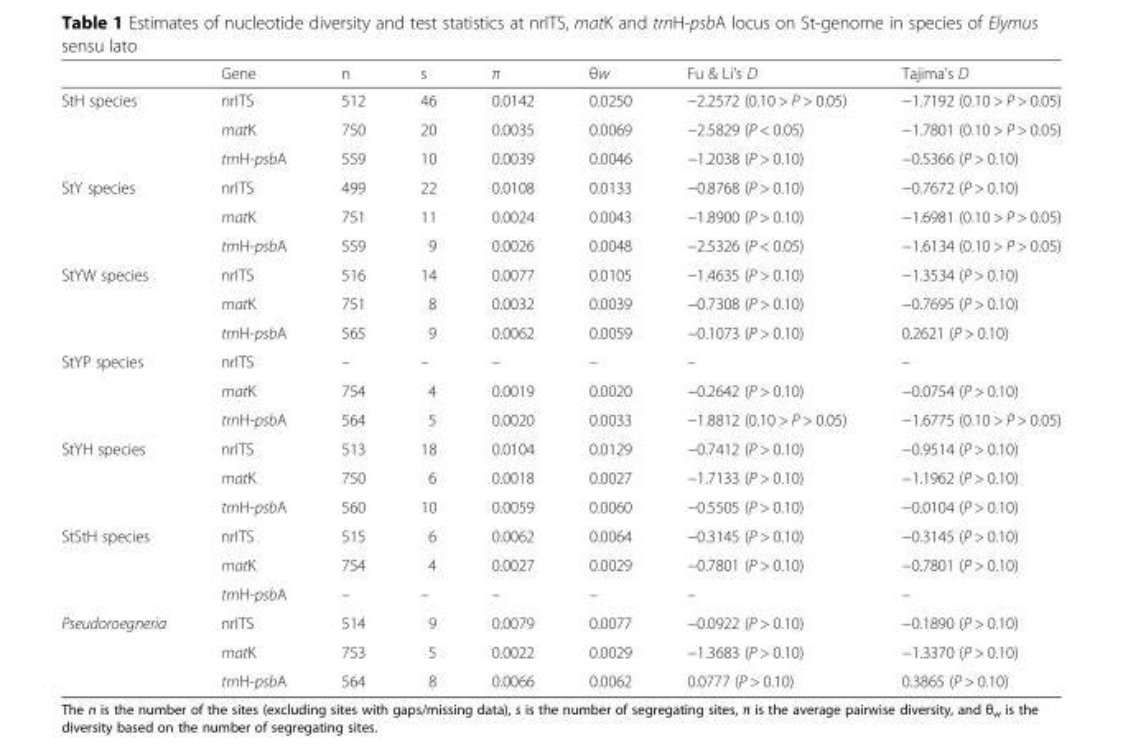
<table><thead><tr><td></td><td>Gene</td><td>n</td><td>s</td><td>π</td><td>θw</td><td>Fu &amp; Li’s D</td><td>Tajima’s D</td></tr></thead><tbody><tr><td rowspan="3">StH species</td><td>nrITS</td><td>512</td><td>46</td><td>0.0142</td><td>0.0250</td><td>−2.2572 (0.10 &gt; P &gt; 0.05)</td><td>−1.7192 (0.10 &gt; P &gt; 0.05)</td></tr><tr><td>matK</td><td>750</td><td>20</td><td>0.0035</td><td>0.0069</td><td>−2.5829 (P &lt; 0.05)</td><td>−1.7801 (0.10 &gt; P &gt; 0.05)</td></tr><tr><td>trnH-psbA</td><td>559</td><td>10</td><td>0.0039</td><td>0.0046</td><td>−1.2038 (P &gt; 0.10)</td><td>−0.5366 (P &gt; 0.10)</td></tr><tr><td rowspan="3">StY species</td><td>nrITS</td><td>499</td><td>22</td><td>0.0108</td><td>0.0133</td><td>−0.8768 (P &gt; 0.10)</td><td>−0.7672 (P &gt; 0.10)</td></tr><tr><td>matK</td><td>751</td><td>11</td><td>0.0024</td><td>0.0043</td><td>−1.8900 (P &gt; 0.10)</td><td>−1.6981 (0.10 &gt; P &gt; 0.05)</td></tr><tr><td>trnH-psbA</td><td>559</td><td>9</td><td>0.0026</td><td>0.0048</td><td>−2.5326 (P &lt; 0.05)</td><td>−1.6134 (0.10 &gt; P &gt; 0.05)</td></tr><tr><td rowspan="3">StYW species</td><td>nrITS</td><td>516</td><td>14</td><td>0.0077</td><td>0.0105</td><td>−1.4635 (P &gt; 0.10)</td><td>−1.3534 (P &gt; 0.10)</td></tr><tr><td>matK</td><td>751</td><td>8</td><td>0.0032</td><td>0.0039</td><td>−0.7308 (P &gt; 0.10)</td><td>−0.7695 (P &gt; 0.10)</td></tr><tr><td>trnH-psbA</td><td>565</td><td>9</td><td>0.0062</td><td>0.0059</td><td>−0.1073 (P &gt; 0.10)</td><td>0.2621 (P &gt; 0.10)</td></tr><tr><td rowspan="3">StYP species</td><td>nrITS</td><td>–</td><td>–</td><td>–</td><td>–</td><td>–</td><td>–</td></tr><tr><td>matK</td><td>754</td><td>4</td><td>0.0019</td><td>0.0020</td><td>−0.2642 (P &gt; 0.10)</td><td>−0.0754 (P &gt; 0.10)</td></tr><tr><td>trnH-psbA</td><td>564</td><td>5</td><td>0.0020</td><td>0.0033</td><td>−1.8812 (0.10 &gt; P &gt; 0.05)</td><td>−1.6775 (0.10 &gt; P &gt; 0.05)</td></tr><tr><td rowspan="3">StYH species</td><td>nrITS</td><td>513</td><td>18</td><td>0.0104</td><td>0.0129</td><td>−0.7412 (P &gt; 0.10)</td><td>−0.9514 (P &gt; 0.10)</td></tr><tr><td>matK</td><td>750</td><td>6</td><td>0.0018</td><td>0.0027</td><td>−1.7133 (P &gt; 0.10)</td><td>−1.1962 (P &gt; 0.10)</td></tr><tr><td>trnH-psbA</td><td>560</td><td>10</td><td>0.0059</td><td>0.0060</td><td>−0.5505 (P &gt; 0.10)</td><td>−0.0104 (P &gt; 0.10)</td></tr><tr><td rowspan="3">StStH species</td><td>nrITS</td><td>515</td><td>6</td><td>0.0062</td><td>0.0064</td><td>−0.3145 (P &gt; 0.10)</td><td>−0.3145 (P &gt; 0.10)</td></tr><tr><td>matK</td><td>754</td><td>4</td><td>0.0027</td><td>0.0029</td><td>−0.7801 (P &gt; 0.10)</td><td>−0.7801 (P &gt; 0.10)</td></tr><tr><td>trnH-psbA</td><td>–</td><td>–</td><td>–</td><td>–</td><td>–</td><td>–</td></tr><tr><td rowspan="3">Pseudoroegneria</td><td>nrITS</td><td>514</td><td>9</td><td>0.0079</td><td>0.0077</td><td>−0.0922 (P &gt; 0.10)</td><td>−0.1890 (P &gt; 0.10)</td></tr><tr><td>matK</td><td>753</td><td>5</td><td>0.0022</td><td>0.0029</td><td>−1.3683 (P &gt; 0.10)</td><td>−1.3370 (P &gt; 0.10)</td></tr><tr><td>trnH-psbA</td><td>564</td><td>8</td><td>0.0066</td><td>0.0062</td><td>0.0777 (P &gt; 0.10)</td><td>0.3865 (P &gt; 0.10)</td></tr></tbody></table>